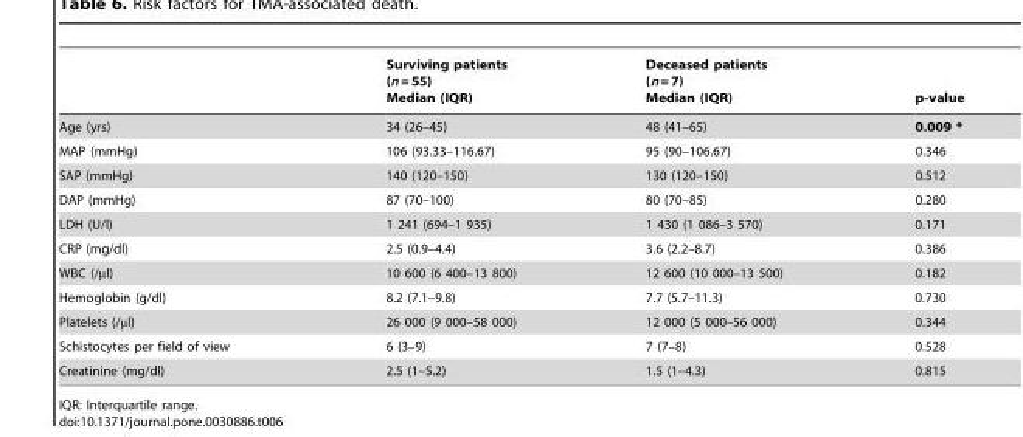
<table><thead><tr><td></td><td>Surviving patients (n = 55) Median (IQR)</td><td>Deceased patients (n = 7) Median (IQR)</td><td>p-value</td></tr></thead><tbody><tr><td>Age (yrs)</td><td>34 (26–45)</td><td>48 (41–65)</td><td>0.009 *</td></tr><tr><td>MAP (mmHg)</td><td>106 (93.33–116.67)</td><td>95 (90–106.67)</td><td>0.346</td></tr><tr><td>SAP (mmHg)</td><td>140 (120–150)</td><td>130 (120–150)</td><td>0.512</td></tr><tr><td>DAP (mmHg)</td><td>87 (70–100)</td><td>80 (70–85)</td><td>0.280</td></tr><tr><td>LDH (U/l)</td><td>1 241 (694–1 935)</td><td>1 430 (1 086–3 570)</td><td>0.171</td></tr><tr><td>CRP (mg/dl)</td><td>2.5 (0.9–4.4)</td><td>3.6 (2.2–8.7)</td><td>0.386</td></tr><tr><td>WBC (/µl)</td><td>10 600 (6 400–13 800)</td><td>12 600 (10 000–13 500)</td><td>0.182</td></tr><tr><td>Hemoglobin (g/dl)</td><td>8.2 (7.1–9.8)</td><td>7.7 (5.7–11.3)</td><td>0.730</td></tr><tr><td>Platelets (/µl)</td><td>26 000 (9 000–58 000)</td><td>12 000 (5 000–56 000)</td><td>0.344</td></tr><tr><td>Schistocytes per field of view</td><td>6 (3–9)</td><td>7 (7–8)</td><td>0.528</td></tr><tr><td>Creatinine (mg/dl)</td><td>2.5 (1–5.2)</td><td>1.5 (1–4.3)</td><td>0.815</td></tr></tbody></table>